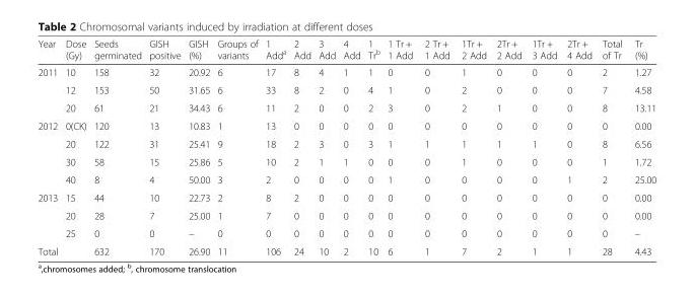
<table><thead><tr><td>Year</td><td>Dose (Gy)</td><td>Seeds germinated</td><td>GISH positive</td><td>GISH (%)</td><td>Groups of variants</td><td>1 Add<sup>a</sup></td><td>2 Add</td><td>3 Add</td><td>4 Add</td><td>1 Tr<sup>b</sup></td><td>1 Tr + 1 Add</td><td>2 Tr + 1 Add</td><td>1Tr + 2 Add</td><td>2Tr + 2 Add</td><td>1Tr + 3 Add</td><td>2Tr + 4 Add</td><td>Total of Tr</td><td>Tr (%)</td></tr></thead><tbody><tr><td rowspan="3">2011</td><td>10</td><td>158</td><td>32</td><td>20.92</td><td>6</td><td>17</td><td>8</td><td>4</td><td>1</td><td>1</td><td>0</td><td>0</td><td>1</td><td>0</td><td>0</td><td>0</td><td>2</td><td>1.27</td></tr><tr><td>12</td><td>153</td><td>50</td><td>31.65</td><td>6</td><td>33</td><td>8</td><td>2</td><td>0</td><td>4</td><td>1</td><td>0</td><td>2</td><td>0</td><td>0</td><td>0</td><td>7</td><td>4.58</td></tr><tr><td>20</td><td>61</td><td>21</td><td>34.43</td><td>6</td><td>11</td><td>2</td><td>0</td><td>0</td><td>2</td><td>3</td><td>0</td><td>2</td><td>1</td><td>0</td><td>0</td><td>8</td><td>13.11</td></tr><tr><td rowspan="4">2012</td><td>0(CK)</td><td>120</td><td>13</td><td>10.83</td><td>1</td><td>13</td><td>0</td><td>0</td><td>0</td><td>0</td><td>0</td><td>0</td><td>0</td><td>0</td><td>0</td><td>0</td><td>0</td><td>0.00</td></tr><tr><td>20</td><td>122</td><td>31</td><td>25.41</td><td>9</td><td>18</td><td>2</td><td>3</td><td>0</td><td>3</td><td>1</td><td>1</td><td>1</td><td>1</td><td>1</td><td>0</td><td>8</td><td>6.56</td></tr><tr><td>30</td><td>58</td><td>15</td><td>25.86</td><td>5</td><td>10</td><td>2</td><td>1</td><td>1</td><td>0</td><td>0</td><td>0</td><td>1</td><td>0</td><td>0</td><td>0</td><td>1</td><td>1.72</td></tr><tr><td>40</td><td>8</td><td>4</td><td>50.00</td><td>3</td><td>2</td><td>0</td><td>0</td><td>0</td><td>0</td><td>1</td><td>0</td><td>0</td><td>0</td><td>0</td><td>1</td><td>2</td><td>25.00</td></tr><tr><td rowspan="3">2013</td><td>15</td><td>44</td><td>10</td><td>22.73</td><td>2</td><td>8</td><td>2</td><td>0</td><td>0</td><td>0</td><td>0</td><td>0</td><td>0</td><td>0</td><td>0</td><td>0</td><td>0</td><td>0.00</td></tr><tr><td>20</td><td>28</td><td>7</td><td>25.00</td><td>1</td><td>7</td><td>0</td><td>0</td><td>0</td><td>0</td><td>0</td><td>0</td><td>0</td><td>0</td><td>0</td><td>0</td><td>0</td><td>0.00</td></tr><tr><td>25</td><td>0</td><td>0</td><td>–</td><td>0</td><td>0</td><td>0</td><td>0</td><td>0</td><td>0</td><td>0</td><td>0</td><td>0</td><td>0</td><td>0</td><td>0</td><td>0</td><td>–</td></tr><tr><td>Total</td><td></td><td>632</td><td>170</td><td>26.90</td><td>11</td><td>106</td><td>24</td><td>10</td><td>2</td><td>10</td><td>6</td><td>1</td><td>7</td><td>2</td><td>1</td><td>1</td><td>28</td><td>4.43</td></tr></tbody></table>